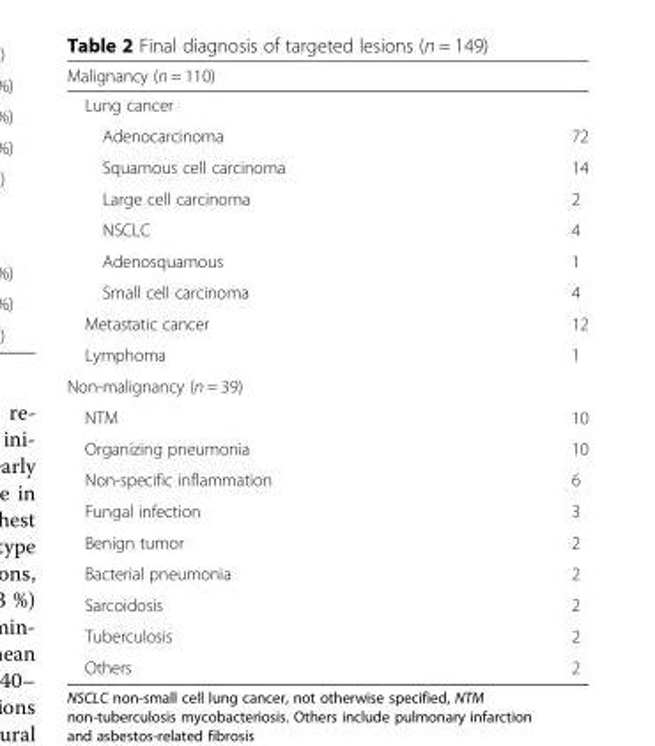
<table><thead><tr><td>Malignancy (n = 110)</td><td></td></tr></thead><tbody><tr><td colspan="2">Lung cancer</td></tr><tr><td>Adenocarcinoma</td><td>72</td></tr><tr><td>Squamous cell carcinoma</td><td>14</td></tr><tr><td>Large cell carcinoma</td><td>2</td></tr><tr><td>NSCLC</td><td>4</td></tr><tr><td>Adenosquamous</td><td>1</td></tr><tr><td>Small cell carcinoma</td><td>4</td></tr><tr><td>Metastatic cancer</td><td>12</td></tr><tr><td>Lymphoma</td><td>1</td></tr><tr><td colspan="2">Non-malignancy (n = 39)</td></tr><tr><td>NTM</td><td>10</td></tr><tr><td>Organizing pneumonia</td><td>10</td></tr><tr><td>Non-specific inflammation</td><td>6</td></tr><tr><td>Fungal infection</td><td>3</td></tr><tr><td>Benign tumor</td><td>2</td></tr><tr><td>Bacterial pneumonia</td><td>2</td></tr><tr><td>Sarcoidosis</td><td>2</td></tr><tr><td>Tuberculosis</td><td>2</td></tr><tr><td>Others</td><td>2</td></tr></tbody></table>